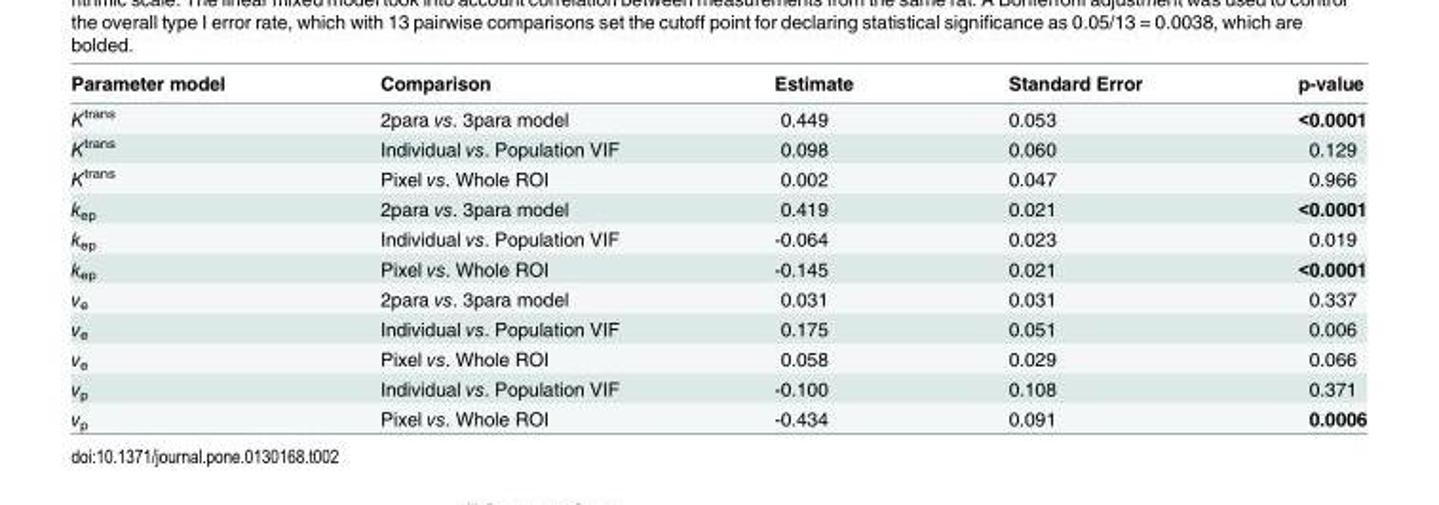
<table><thead><tr><td>Parameter model</td><td>Comparison</td><td>Estimate</td><td>Standard Error</td><td>p-value</td></tr></thead><tbody><tr><td>K<sup>trans</sup></td><td>2para vs. 3para model</td><td>0.449</td><td>0.053</td><td>&lt;0.0001</td></tr><tr><td>K<sup>trans</sup></td><td>Individual vs. Population VIF</td><td>0.098</td><td>0.060</td><td>0.129</td></tr><tr><td>K<sup>trans</sup></td><td>Pixel vs. Whole ROI</td><td>0.002</td><td>0.047</td><td>0.966</td></tr><tr><td>k<sub>ep</sub></td><td>2para vs. 3para model</td><td>0.419</td><td>0.021</td><td>&lt;0.0001</td></tr><tr><td>k<sub>ep</sub></td><td>Individual vs. Population VIF</td><td>-0.064</td><td>0.023</td><td>0.019</td></tr><tr><td>k<sub>ep</sub></td><td>Pixel vs. Whole ROI</td><td>-0.145</td><td>0.021</td><td>&lt;0.0001</td></tr><tr><td>v<sub>e</sub></td><td>2para vs. 3para model</td><td>0.031</td><td>0.031</td><td>0.337</td></tr><tr><td>v<sub>e</sub></td><td>Individual vs. Population VIF</td><td>0.175</td><td>0.051</td><td>0.006</td></tr><tr><td>v<sub>e</sub></td><td>Pixel vs. Whole ROI</td><td>0.058</td><td>0.029</td><td>0.066</td></tr><tr><td>v<sub>p</sub></td><td>Individual vs. Population VIF</td><td>-0.100</td><td>0.108</td><td>0.371</td></tr><tr><td>v<sub>p</sub></td><td>Pixel vs. Whole ROI</td><td>-0.434</td><td>0.091</td><td>0.0006</td></tr></tbody></table>